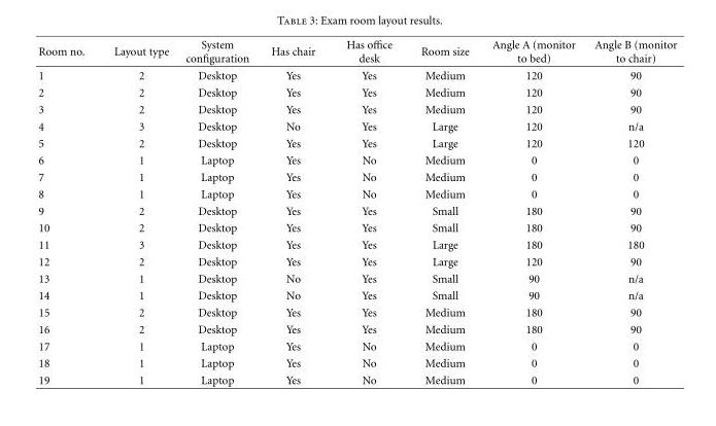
<table><thead><tr><td>Room no.</td><td>Layout type</td><td>System configuration</td><td>Has chair</td><td>Has office desk</td><td>Room size</td><td>Angle A (monitor to bed)</td><td>Angle B (monitor to chair)</td></tr></thead><tbody><tr><td>1</td><td>2</td><td>Desktop</td><td>Yes</td><td>Yes</td><td>Medium</td><td>120</td><td>90</td></tr><tr><td>2</td><td>2</td><td>Desktop</td><td>Yes</td><td>Yes</td><td>Medium</td><td>120</td><td>90</td></tr><tr><td>3</td><td>2</td><td>Desktop</td><td>Yes</td><td>Yes</td><td>Medium</td><td>120</td><td>90</td></tr><tr><td>4</td><td>3</td><td>Desktop</td><td>No</td><td>Yes</td><td>Large</td><td>120</td><td>n/a</td></tr><tr><td>5</td><td>2</td><td>Desktop</td><td>Yes</td><td>Yes</td><td>Large</td><td>120</td><td>120</td></tr><tr><td>6</td><td>1</td><td>Laptop</td><td>Yes</td><td>No</td><td>Medium</td><td>0</td><td>0</td></tr><tr><td>7</td><td>1</td><td>Laptop</td><td>Yes</td><td>No</td><td>Medium</td><td>0</td><td>0</td></tr><tr><td>8</td><td>1</td><td>Laptop</td><td>Yes</td><td>No</td><td>Medium</td><td>0</td><td>0</td></tr><tr><td>9</td><td>2</td><td>Desktop</td><td>Yes</td><td>Yes</td><td>Small</td><td>180</td><td>90</td></tr><tr><td>10</td><td>2</td><td>Desktop</td><td>Yes</td><td>Yes</td><td>Small</td><td>180</td><td>90</td></tr><tr><td>11</td><td>3</td><td>Desktop</td><td>Yes</td><td>Yes</td><td>Large</td><td>180</td><td>180</td></tr><tr><td>12</td><td>2</td><td>Desktop</td><td>Yes</td><td>Yes</td><td>Large</td><td>120</td><td>90</td></tr><tr><td>13</td><td>1</td><td>Desktop</td><td>No</td><td>Yes</td><td>Small</td><td>90</td><td>n/a</td></tr><tr><td>14</td><td>1</td><td>Desktop</td><td>No</td><td>Yes</td><td>Small</td><td>90</td><td>n/a</td></tr><tr><td>15</td><td>2</td><td>Desktop</td><td>Yes</td><td>Yes</td><td>Medium</td><td>180</td><td>90</td></tr><tr><td>16</td><td>2</td><td>Desktop</td><td>Yes</td><td>Yes</td><td>Medium</td><td>180</td><td>90</td></tr><tr><td>17</td><td>1</td><td>Laptop</td><td>Yes</td><td>No</td><td>Medium</td><td>0</td><td>0</td></tr><tr><td>18</td><td>1</td><td>Laptop</td><td>Yes</td><td>No</td><td>Medium</td><td>0</td><td>0</td></tr><tr><td>19</td><td>1</td><td>Laptop</td><td>Yes</td><td>No</td><td>Medium</td><td>0</td><td>0</td></tr></tbody></table>